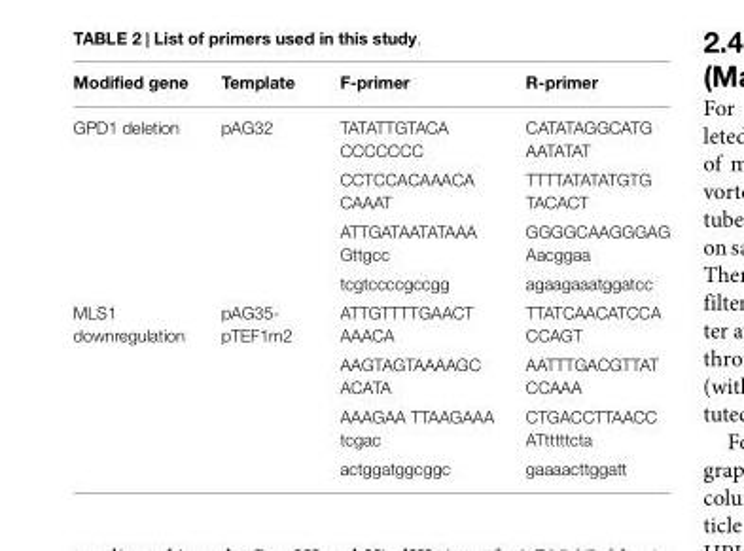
<table><thead><tr><td>Modified gene</td><td>Template</td><td>F-primer</td><td>R-primer</td></tr></thead><tbody><tr><td rowspan="7">GPD1 deletion</td><td>pAG32</td><td>TATATTGTACA</td><td>CATATAGGCATG</td></tr><tr><td></td><td>CCCCCCC</td><td>AATATAT</td></tr><tr><td></td><td>CCTCCACAAACA</td><td>TTTTATATATGTG</td></tr><tr><td></td><td>CAAAT</td><td>TACACT</td></tr><tr><td></td><td>ATTGATAATATAAA</td><td>GGGGCAAGGGAG</td></tr><tr><td></td><td>Gttgcc</td><td>Aacggaa</td></tr><tr><td></td><td>tcgtccccgccgg</td><td>agaagaaatggatcc</td></tr><tr><td>MLS1</td><td>pAG35-</td><td>ATTGTTTTGAACT</td><td>TTATCAACATCCA</td></tr><tr><td rowspan="6">downregulation</td><td>pTEF1m2</td><td>AAACA</td><td>CCAGT</td></tr><tr><td></td><td>AAGTAGTAAAAGC</td><td>AATTTGACGTTAT</td></tr><tr><td></td><td>ACATA</td><td>CCAAA</td></tr><tr><td></td><td>AAAGAA TTAAGAAA</td><td>CTGACCTTAACC</td></tr><tr><td></td><td>tcgac</td><td>ATtttttcta</td></tr><tr><td></td><td>actggatggcggc</td><td>gaaaacttggatt</td></tr></tbody></table>